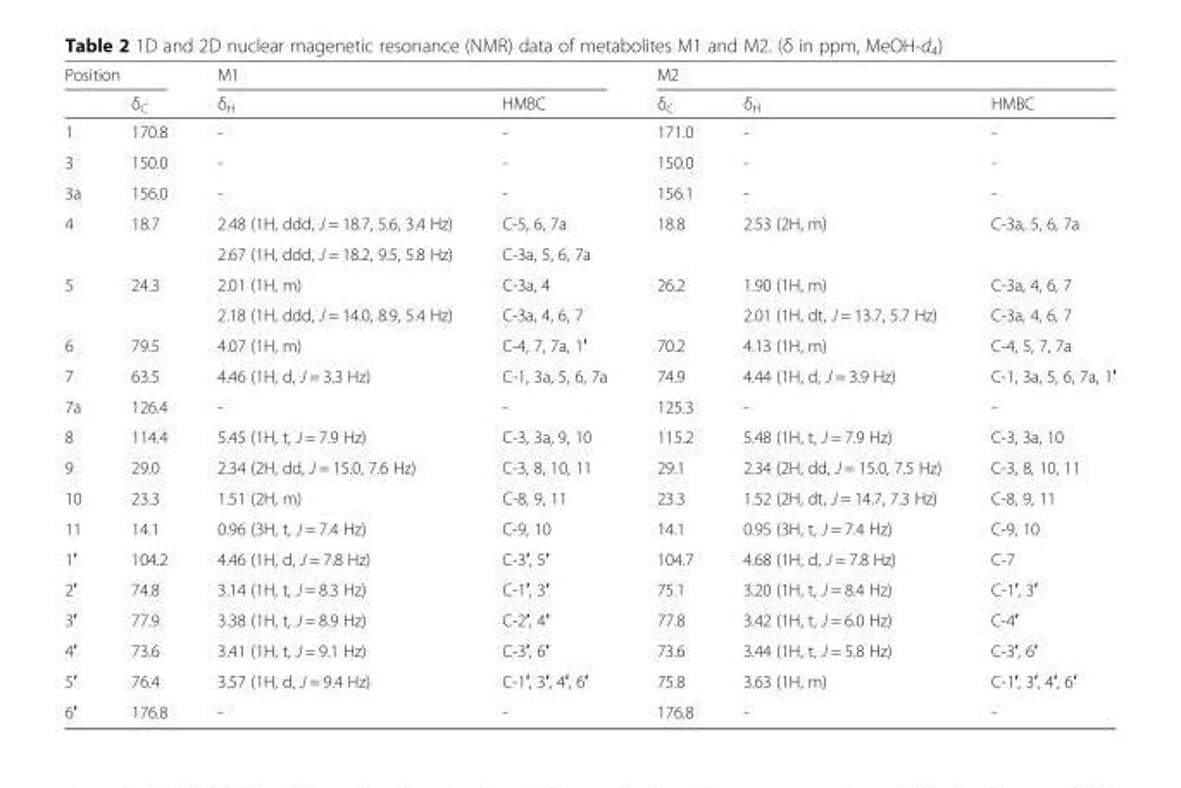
<table><thead><tr><td colspan="2">Position</td><td colspan="2">M1</td><td colspan="3">M2</td></tr><tr><td></td><td>δ<sub>C</sub></td><td>δ<sub>H</sub></td><td>HMBC</td><td>δ<sub>C</sub></td><td>δ<sub>H</sub></td><td>HMBC</td></tr></thead><tbody><tr><td>1</td><td>170.8</td><td>-</td><td>-</td><td>171.0</td><td>-</td><td>-</td></tr><tr><td>3</td><td>150.0</td><td>-</td><td>-</td><td>150.0</td><td>-</td><td>-</td></tr><tr><td>3a</td><td>156.0</td><td>-</td><td>-</td><td>156.1</td><td>-</td><td>-</td></tr><tr><td rowspan="2">4</td><td>18.7</td><td>2.48 (1H, ddd, J = 18.7, 5.6, 3.4 Hz)</td><td>C-5, 6, 7a</td><td>18.8</td><td>2.53 (2H, m)</td><td>C-3a, 5, 6, 7a</td></tr><tr><td></td><td>2.67 (1H, ddd, J = 18.2, 9.5, 5.8 Hz)</td><td>C-3a, 5, 6, 7a</td><td></td><td></td><td></td></tr><tr><td rowspan="2">5</td><td>24.3</td><td>2.01 (1H, m)</td><td>C-3a, 4</td><td>26.2</td><td>1.90 (1H, m)</td><td>C-3a, 4, 6, 7</td></tr><tr><td></td><td>2.18 (1H, ddd, J = 14.0, 8.9, 5.4 Hz)</td><td>C-3a, 4, 6, 7</td><td></td><td>2.01 (1H, dt, J = 13.7, 5.7 Hz)</td><td>C-3a, 4, 6, 7</td></tr><tr><td>6</td><td>79.5</td><td>4.07 (1H, m)</td><td>C-4, 7, 7a, 1′</td><td>70.2</td><td>4.13 (1H, m)</td><td>C-4, 5, 7, 7a</td></tr><tr><td>7</td><td>63.5</td><td>4.46 (1H, d, J = 3.3 Hz)</td><td>C-1, 3a, 5, 6, 7a</td><td>74.9</td><td>4.44 (1H, d, J = 3.9 Hz)</td><td>C-1, 3a, 5, 6, 7a, 1′</td></tr><tr><td>7a</td><td>126.4</td><td>-</td><td>-</td><td>125.3</td><td>-</td><td>-</td></tr><tr><td>8</td><td>114.4</td><td>5.45 (1H, t, J = 7.9 Hz)</td><td>C-3, 3a, 9, 10</td><td>115.2</td><td>5.48 (1H, t, J = 7.9 Hz)</td><td>C-3, 3a, 10</td></tr><tr><td>9</td><td>29.0</td><td>2.34 (2H, dd, J = 15.0, 7.6 Hz)</td><td>C-3, 8, 10, 11</td><td>29.1</td><td>2.34 (2H, dd, J = 15.0, 7.5 Hz)</td><td>C-3, 8, 10, 11</td></tr><tr><td>10</td><td>23.3</td><td>1.51 (2H, m)</td><td>C-8, 9, 11</td><td>23.3</td><td>1.52 (2H, dt, J = 14.7, 7.3 Hz)</td><td>C-8, 9, 11</td></tr><tr><td>11</td><td>14.1</td><td>0.96 (3H, t, J = 7.4 Hz)</td><td>C-9, 10</td><td>14.1</td><td>0.95 (3H, t, J = 7.4 Hz)</td><td>C-9, 10</td></tr><tr><td>1′</td><td>104.2</td><td>4.46 (1H, d, J = 7.8 Hz)</td><td>C-3′, 5′</td><td>104.7</td><td>4.68 (1H, d, J = 7.8 Hz)</td><td>C-7</td></tr><tr><td>2′</td><td>74.8</td><td>3.14 (1H, t, J = 8.3 Hz)</td><td>C-1′, 3′</td><td>75.1</td><td>3.20 (1H, t, J = 8.4 Hz)</td><td>C-1′, 3′</td></tr><tr><td>3′</td><td>77.9</td><td>3.38 (1H, t, J = 8.9 Hz)</td><td>C-2′, 4′</td><td>77.8</td><td>3.42 (1H, t, J = 6.0 Hz)</td><td>C-4′</td></tr><tr><td>4′</td><td>73.6</td><td>3.41 (1H, t, J = 9.1 Hz)</td><td>C-3′, 6′</td><td>73.6</td><td>3.44 (1H, t, J = 5.8 Hz)</td><td>C-3′, 6′</td></tr><tr><td>5′</td><td>76.4</td><td>3.57 (1H, d, J = 9.4 Hz)</td><td>C-1′, 3′, 4′, 6′</td><td>75.8</td><td>3.63 (1H, m)</td><td>C-1′, 3′, 4′, 6′</td></tr><tr><td>6′</td><td>176.8</td><td>-</td><td>-</td><td>176.8</td><td>-</td><td>-</td></tr></tbody></table>